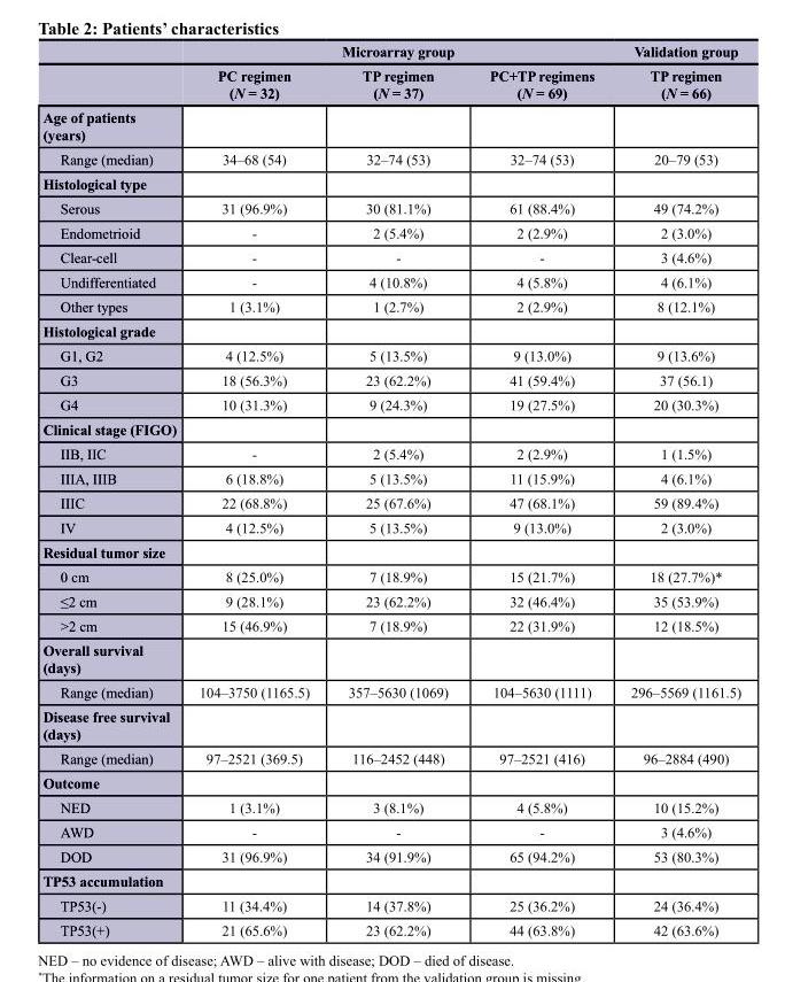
<table><thead><tr><td rowspan="2"></td><td colspan="3">Microarray group</td><td rowspan="2">Validation group TP regimen (N = 66)</td></tr><tr><td>PC regimen (N = 32)</td><td>TP regimen (N = 37)</td><td>PC+TP regimens (N = 69)</td></tr></thead><tbody><tr><td colspan="5">Age of patients (years)</td></tr><tr><td>Range (median)</td><td>34–68 (54)</td><td>32–74 (53)</td><td>32–74 (53)</td><td>20–79 (53)</td></tr><tr><td colspan="5">Histological type</td></tr><tr><td>Serous</td><td>31 (96.9%)</td><td>30 (81.1%)</td><td>61 (88.4%)</td><td>49 (74.2%)</td></tr><tr><td>Endometrioid</td><td>-</td><td>2 (5.4%)</td><td>2 (2.9%)</td><td>2 (3.0%)</td></tr><tr><td>Clear-cell</td><td>-</td><td>-</td><td>-</td><td>3 (4.6%)</td></tr><tr><td>Undifferentiated</td><td>-</td><td>4 (10.8%)</td><td>4 (5.8%)</td><td>4 (6.1%)</td></tr><tr><td>Other types</td><td>1 (3.1%)</td><td>1 (2.7%)</td><td>2 (2.9%)</td><td>8 (12.1%)</td></tr><tr><td colspan="5">Histological grade</td></tr><tr><td>G1, G2</td><td>4 (12.5%)</td><td>5 (13.5%)</td><td>9 (13.0%)</td><td>9 (13.6%)</td></tr><tr><td>G3</td><td>18 (56.3%)</td><td>23 (62.2%)</td><td>41 (59.4%)</td><td>37 (56.1)</td></tr><tr><td>G4</td><td>10 (31.3%)</td><td>9 (24.3%)</td><td>19 (27.5%)</td><td>20 (30.3%)</td></tr><tr><td colspan="5">Clinical stage (FIGO)</td></tr><tr><td>IIB, IIC</td><td>-</td><td>2 (5.4%)</td><td>2 (2.9%)</td><td>1 (1.5%)</td></tr><tr><td>IIIA, IIIB</td><td>6 (18.8%)</td><td>5 (13.5%)</td><td>11 (15.9%)</td><td>4 (6.1%)</td></tr><tr><td>IIIC</td><td>22 (68.8%)</td><td>25 (67.6%)</td><td>47 (68.1%)</td><td>59 (89.4%)</td></tr><tr><td>IV</td><td>4 (12.5%)</td><td>5 (13.5%)</td><td>9 (13.0%)</td><td>2 (3.0%)</td></tr><tr><td colspan="5">Residual tumor size</td></tr><tr><td>0 cm</td><td>8 (25.0%)</td><td>7 (18.9%)</td><td>15 (21.7%)</td><td>18 (27.7%)*</td></tr><tr><td>≤2 cm</td><td>9 (28.1%)</td><td>23 (62.2%)</td><td>32 (46.4%)</td><td>35 (53.9%)</td></tr><tr><td>&gt;2 cm</td><td>15 (46.9%)</td><td>7 (18.9%)</td><td>22 (31.9%)</td><td>12 (18.5%)</td></tr><tr><td colspan="5">Overall survival (days)</td></tr><tr><td>Range (median)</td><td>104–3750 (1165.5)</td><td>357–5630 (1069)</td><td>104–5630 (1111)</td><td>296–5569 (1161.5)</td></tr><tr><td colspan="5">Disease free survival (days)</td></tr><tr><td>Range (median)</td><td>97–2521 (369.5)</td><td>116–2452 (448)</td><td>97–2521 (416)</td><td>96–2884 (490)</td></tr><tr><td colspan="5">Outcome</td></tr><tr><td>NED</td><td>1 (3.1%)</td><td>3 (8.1%)</td><td>4 (5.8%)</td><td>10 (15.2%)</td></tr><tr><td>AWD</td><td>-</td><td>-</td><td>-</td><td>3 (4.6%)</td></tr><tr><td>DOD</td><td>31 (96.9%)</td><td>34 (91.9%)</td><td>65 (94.2%)</td><td>53 (80.3%)</td></tr><tr><td colspan="5">TP53 accumulation</td></tr><tr><td>TP53(-)</td><td>11 (34.4%)</td><td>14 (37.8%)</td><td>25 (36.2%)</td><td>24 (36.4%)</td></tr><tr><td>TP53(+)</td><td>21 (65.6%)</td><td>23 (62.2%)</td><td>44 (63.8%)</td><td>42 (63.6%)</td></tr></tbody></table>